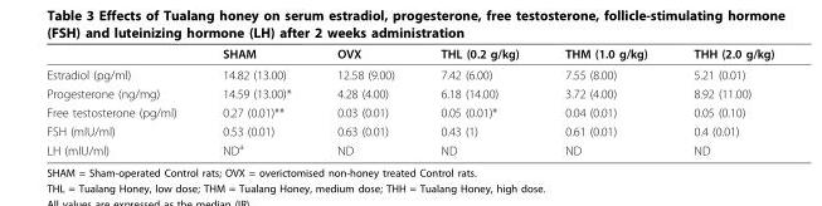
<table><thead><tr><td></td><td>SHAM</td><td>OVX</td><td>THL (0.2 g/kg)</td><td>THM (1.0 g/kg)</td><td>THH (2.0 g/kg)</td></tr></thead><tbody><tr><td>Estradiol (pg/ml)</td><td>14.82 (13.00)</td><td>12.58 (9.00)</td><td>7.42 (6.00)</td><td>7.55 (8.00)</td><td>5.21 (0.01)</td></tr><tr><td>Progesterone (ng/mg)</td><td>14.59 (13.00)*</td><td>4.28 (4.00)</td><td>6.18 (14.00)</td><td>3.72 (4.00)</td><td>8.92 (11.00)</td></tr><tr><td>Free testosterone (pg/ml)</td><td>0.27 (0.01)**</td><td>0.03 (0.01)</td><td>0.05 (0.01)*</td><td>0.04 (0.01)</td><td>0.05 (0.10)</td></tr><tr><td>FSH (mlU/ml)</td><td>0.53 (0.01)</td><td>0.63 (0.01)</td><td>0.43 (1)</td><td>0.61 (0.01)</td><td>0.4 (0.01)</td></tr><tr><td>LH (mlU/ml)</td><td>ND<sup>a</sup></td><td>ND</td><td>ND</td><td>ND</td><td>ND</td></tr></tbody></table>